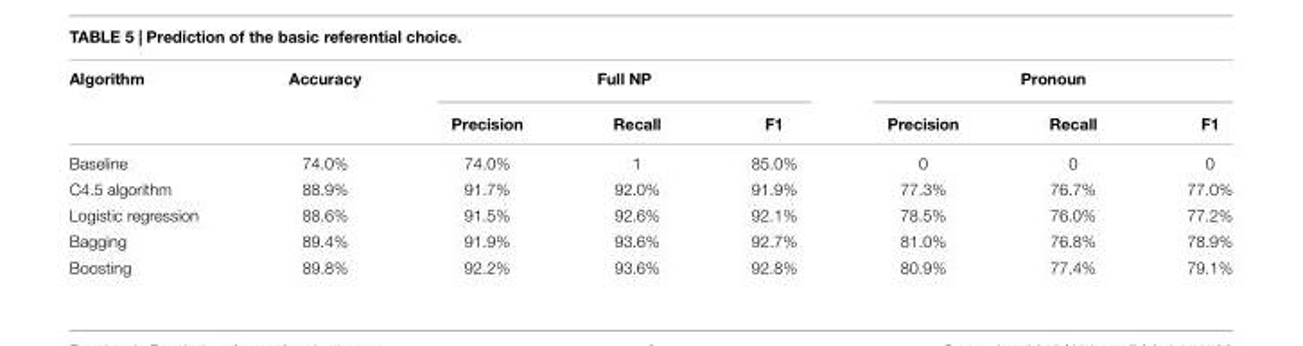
<table><thead><tr><td rowspan="2">Algorithm</td><td rowspan="2">Accuracy</td><td colspan="3">Full NP</td><td colspan="3">Pronoun</td></tr><tr><td>Precision</td><td>Recall</td><td>F1</td><td>Precision</td><td>Recall</td><td>F1</td></tr></thead><tbody><tr><td>Baseline</td><td>74.0%</td><td>74.0%</td><td>1</td><td>85.0%</td><td>0</td><td>0</td><td>0</td></tr><tr><td>C4.5 algorithm</td><td>88.9%</td><td>91.7%</td><td>92.0%</td><td>91.9%</td><td>77.3%</td><td>76.7%</td><td>77.0%</td></tr><tr><td>Logistic regression</td><td>88.6%</td><td>91.5%</td><td>92.6%</td><td>92.1%</td><td>78.5%</td><td>76.0%</td><td>77.2%</td></tr><tr><td>Bagging</td><td>89.4%</td><td>91.9%</td><td>93.6%</td><td>92.7%</td><td>81.0%</td><td>76.8%</td><td>78.9%</td></tr><tr><td>Boosting</td><td>89.8%</td><td>92.2%</td><td>93.6%</td><td>92.8%</td><td>80.9%</td><td>77.4%</td><td>79.1%</td></tr></tbody></table>